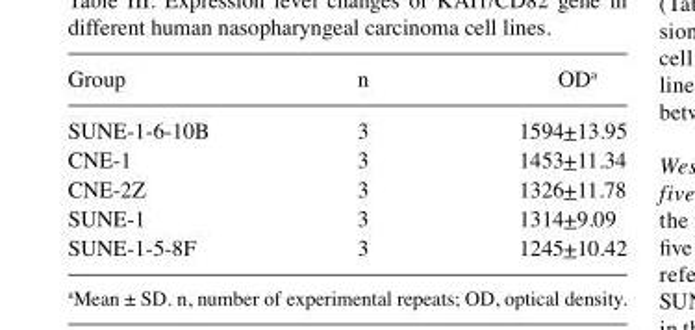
<table><thead><tr><td>Group</td><td>n</td><td>OD<sup>a</sup></td></tr></thead><tbody><tr><td>SUNE-1-6-10B</td><td>3</td><td>1594+13.95</td></tr><tr><td>CNE-1</td><td>3</td><td>1453+11.34</td></tr><tr><td>CNE-2Z</td><td>3</td><td>1326+11.78</td></tr><tr><td>SUNE-1</td><td>3</td><td>1314+9.09</td></tr><tr><td>SUNE-1-5-8F</td><td>3</td><td>1245+10.42</td></tr></tbody></table>